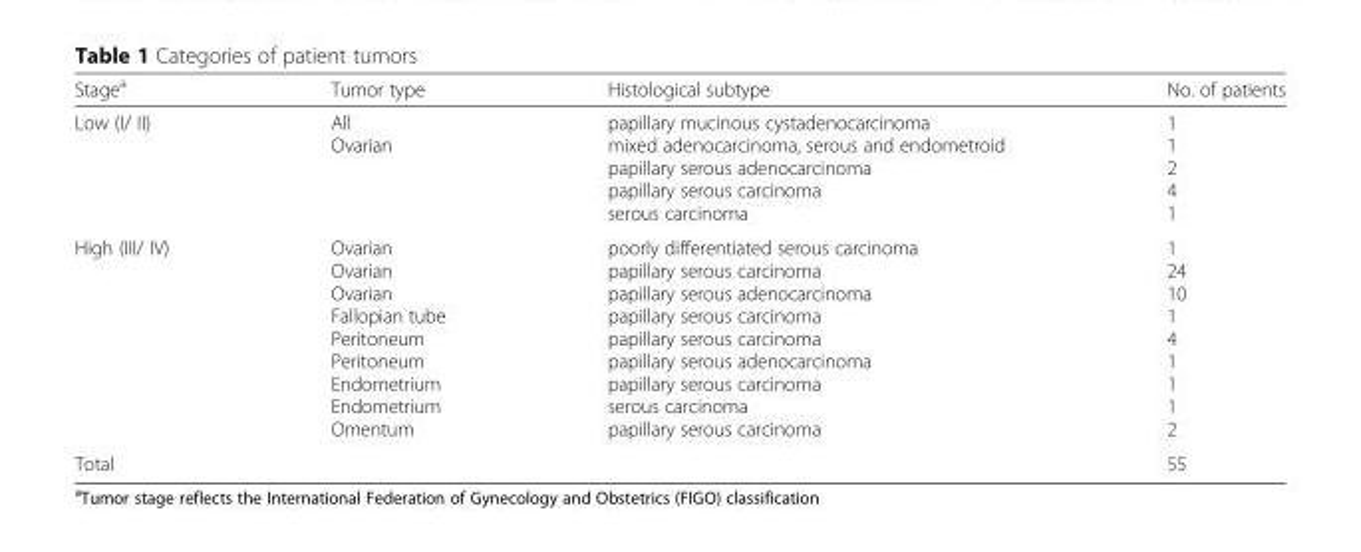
<table><thead><tr><td>Stage<sup>a</sup></td><td>Tumor type</td><td>Histological subtype</td><td>No. of patients</td></tr></thead><tbody><tr><td>Low (I/ II)</td><td>All Ovarian</td><td>papillary mucinous cystadenocarcinoma mixed adenocarcinoma, serous and endometroid papillary serous adenocarcinoma papillary serous carcinoma serous carcinoma</td><td>1 1 2 4 1</td></tr><tr><td>High (III/ IV)</td><td>Ovarian Ovarian Ovarian Fallopian tube Peritoneum Peritoneum Endometrium Endometrium Omentum</td><td>poorly differentiated serous carcinoma papillary serous carcinoma papillary serous adenocarcinoma papillary serous carcinoma papillary serous carcinoma papillary serous adenocarcinoma papillary serous carcinoma serous carcinoma papillary serous carcinoma</td><td>1 24 10 1 4 1 1 1 2</td></tr><tr><td>Total</td><td></td><td></td><td>55</td></tr></tbody></table>